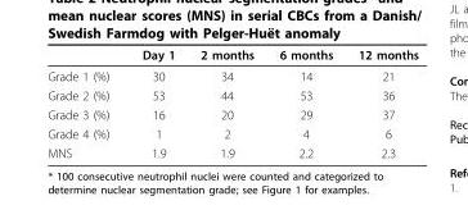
<table><thead><tr><td></td><td>Day 1</td><td>2 months</td><td>6 months</td><td>12 months</td></tr></thead><tbody><tr><td>Grade 1 (%)</td><td>30</td><td>34</td><td>14</td><td>21</td></tr><tr><td>Grade 2 (%)</td><td>53</td><td>44</td><td>53</td><td>36</td></tr><tr><td>Grade 3 (%)</td><td>16</td><td>20</td><td>29</td><td>37</td></tr><tr><td>Grade 4 (%)</td><td>1</td><td>2</td><td>4</td><td>6</td></tr><tr><td>MNS</td><td>1.9</td><td>1.9</td><td>2.2</td><td>2.3</td></tr></tbody></table>